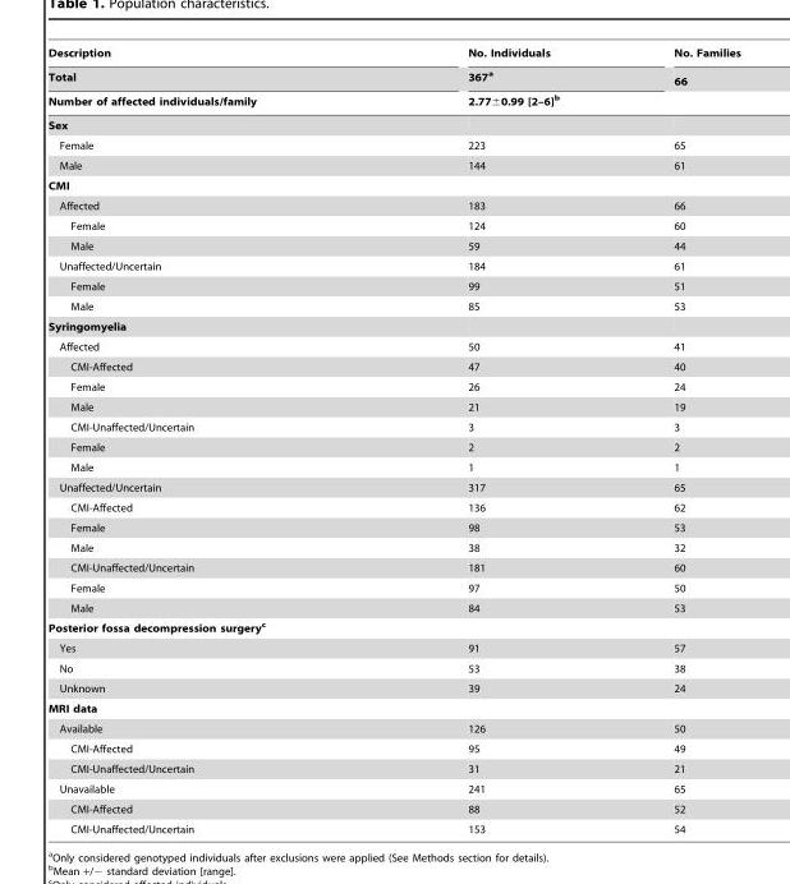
<table><thead><tr><td rowspan="3">Description Total Number of affected individuals/family</td><td rowspan="2">No. Individuals 367<sup>a</sup></td><td rowspan="2">No. Families 66</td></tr><tr></tr><tr><td colspan="2">2.7760.99 [2–6]b</td></tr></thead><tbody><tr><td colspan="3">Sex</td></tr><tr><td>Female</td><td>223</td><td>65</td></tr><tr><td>Male</td><td>144</td><td>61</td></tr><tr><td colspan="3">CMI</td></tr><tr><td>Affected</td><td>183</td><td>66</td></tr><tr><td>Female</td><td>124</td><td>60</td></tr><tr><td>Male</td><td>59</td><td>44</td></tr><tr><td>Unaffected/Uncertain</td><td>184</td><td>61</td></tr><tr><td>Female</td><td>99</td><td>51</td></tr><tr><td>Male</td><td>85</td><td>53</td></tr><tr><td colspan="3">Syringomyelia</td></tr><tr><td>Affected</td><td>50</td><td>41</td></tr><tr><td>CMI-Affected</td><td>47</td><td>40</td></tr><tr><td>Female</td><td>26</td><td>24</td></tr><tr><td>Male</td><td>21</td><td>19</td></tr><tr><td>CMI-Unaffected/Uncertain</td><td>3</td><td>3</td></tr><tr><td>Female</td><td>2</td><td>2</td></tr><tr><td>Male</td><td>1</td><td>1</td></tr><tr><td>Unaffected/Uncertain</td><td>317</td><td>65</td></tr><tr><td>CMI-Affected</td><td>136</td><td>62</td></tr><tr><td>Female</td><td>98</td><td>53</td></tr><tr><td>Male</td><td>38</td><td>32</td></tr><tr><td>CMI-Unaffected/Uncertain</td><td>181</td><td>60</td></tr><tr><td>Female</td><td>97</td><td>50</td></tr><tr><td>Male</td><td>84</td><td>53</td></tr><tr><td colspan="3">Posterior fossa decompression surgeryc</td></tr><tr><td>Yes</td><td>91</td><td>57</td></tr><tr><td>No</td><td>53</td><td>38</td></tr><tr><td>Unknown</td><td>39</td><td>24</td></tr><tr><td colspan="3">MRI data</td></tr><tr><td>Available</td><td>126</td><td>50</td></tr><tr><td>CMI-Affected</td><td>95</td><td>49</td></tr><tr><td>CMI-Unaffected/Uncertain</td><td>31</td><td>21</td></tr><tr><td>Unavailable</td><td>241</td><td>65</td></tr><tr><td>CMI-Affected</td><td>88</td><td>52</td></tr><tr><td>CMI-Unaffected/Uncertain</td><td>153</td><td>54</td></tr></tbody></table>